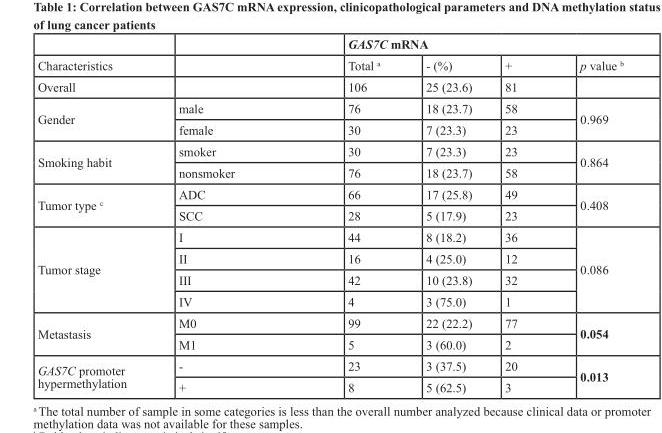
<table><thead><tr><td rowspan="2">Characteristics</td><td rowspan="2"></td><td colspan="4">GAS7C mRNA</td></tr><tr><td>Total <sup>a</sup></td><td>- (%)</td><td>+</td><td>p value <sup>b</sup></td></tr></thead><tbody><tr><td>Overall</td><td></td><td>106</td><td>25 (23.6)</td><td>81</td><td></td></tr><tr><td rowspan="2">Gender</td><td>male</td><td>76</td><td>18 (23.7)</td><td>58</td><td rowspan="2">0.969</td></tr><tr><td>female</td><td>30</td><td>7 (23.3)</td><td>23</td></tr><tr><td rowspan="2">Smoking habit</td><td>smoker</td><td>30</td><td>7 (23.3)</td><td>23</td><td rowspan="2">0.864</td></tr><tr><td>nonsmoker</td><td>76</td><td>18 (23.7)</td><td>58</td></tr><tr><td rowspan="2">Tumor type <sup>c</sup></td><td>ADC</td><td>66</td><td>17 (25.8)</td><td>49</td><td rowspan="2">0.408</td></tr><tr><td>SCC</td><td>28</td><td>5 (17.9)</td><td>23</td></tr><tr><td rowspan="4">Tumor stage</td><td>I</td><td>44</td><td>8 (18.2)</td><td>36</td><td rowspan="4">0.086</td></tr><tr><td>II</td><td>16</td><td>4 (25.0)</td><td>12</td></tr><tr><td>III</td><td>42</td><td>10 (23.8)</td><td>32</td></tr><tr><td>IV</td><td>4</td><td>3 (75.0)</td><td>1</td></tr><tr><td rowspan="2">Metastasis</td><td>M0</td><td>99</td><td>22 (22.2)</td><td>77</td><td rowspan="2">0.054</td></tr><tr><td>M1</td><td>5</td><td>3 (60.0)</td><td>2</td></tr><tr><td rowspan="2">GAS7C promoter hypermethylation</td><td>-</td><td>23</td><td>3 (37.5)</td><td>20</td><td rowspan="2">0.013</td></tr><tr><td>+</td><td>8</td><td>5 (62.5)</td><td>3</td></tr></tbody></table>